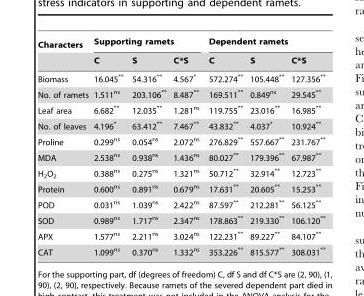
<table><thead><tr><td rowspan="2">Characters</td><td colspan="3">Supporting ramets</td><td colspan="3">Dependent ramets</td></tr><tr><td>C</td><td>S</td><td>C*S</td><td>C</td><td>S</td><td>C*S</td></tr></thead><tbody><tr><td>Biomass</td><td>16.045**</td><td>54.316**</td><td>4.567*</td><td>572.274**</td><td>105.448**</td><td>127.356**</td></tr><tr><td>No. of ramets</td><td>1.511<sup>ns</sup></td><td>203.106**</td><td>8.487**</td><td>169.511**</td><td>0.849<sup>ns</sup></td><td>29.545**</td></tr><tr><td>Leaf area</td><td>6.682**</td><td>12.035**</td><td>1.281<sup>ns</sup></td><td>119.755**</td><td>23.016**</td><td>16.985**</td></tr><tr><td>No. of leaves</td><td>4.196*</td><td>63.412**</td><td>7.467**</td><td>43.832**</td><td>4.037*</td><td>10.924**</td></tr><tr><td>Proline</td><td>0.299<sup>ns</sup></td><td>0.054<sup>ns</sup></td><td>2.072<sup>ns</sup></td><td>276.829**</td><td>557.667**</td><td>231.767**</td></tr><tr><td>MDA</td><td>2.538<sup>ns</sup></td><td>0.938<sup>ns</sup></td><td>1.436<sup>ns</sup></td><td>80.027**</td><td>179.396**</td><td>67.987**</td></tr><tr><td>H<sub>2</sub>O<sub>2</sub></td><td>0.388<sup>ns</sup></td><td>0.275<sup>ns</sup></td><td>1.321<sup>ns</sup></td><td>50.712**</td><td>32.914**</td><td>12.723**</td></tr><tr><td>Protein</td><td>0.600<sup>ns</sup></td><td>0.891<sup>ns</sup></td><td>0.679<sup>ns</sup></td><td>17.631**</td><td>20.605**</td><td>15.253**</td></tr><tr><td>POD</td><td>0.031<sup>ns</sup></td><td>1.039<sup>ns</sup></td><td>2.422<sup>ns</sup></td><td>87.597**</td><td>212.281**</td><td>56.125**</td></tr><tr><td>SOD</td><td>0.989<sup>ns</sup></td><td>1.717<sup>ns</sup></td><td>2.347<sup>ns</sup></td><td>178.863**</td><td>219.330**</td><td>106.120**</td></tr><tr><td>APX</td><td>1.577<sup>ns</sup></td><td>2.211<sup>ns</sup></td><td>3.024<sup>ns</sup></td><td>122.231**</td><td>89.227**</td><td>84.107**</td></tr><tr><td>CAT</td><td>1.099<sup>ns</sup></td><td>0.370<sup>ns</sup></td><td>1.332<sup>ns</sup></td><td>353.226**</td><td>815.577**</td><td>308.031**</td></tr></tbody></table>